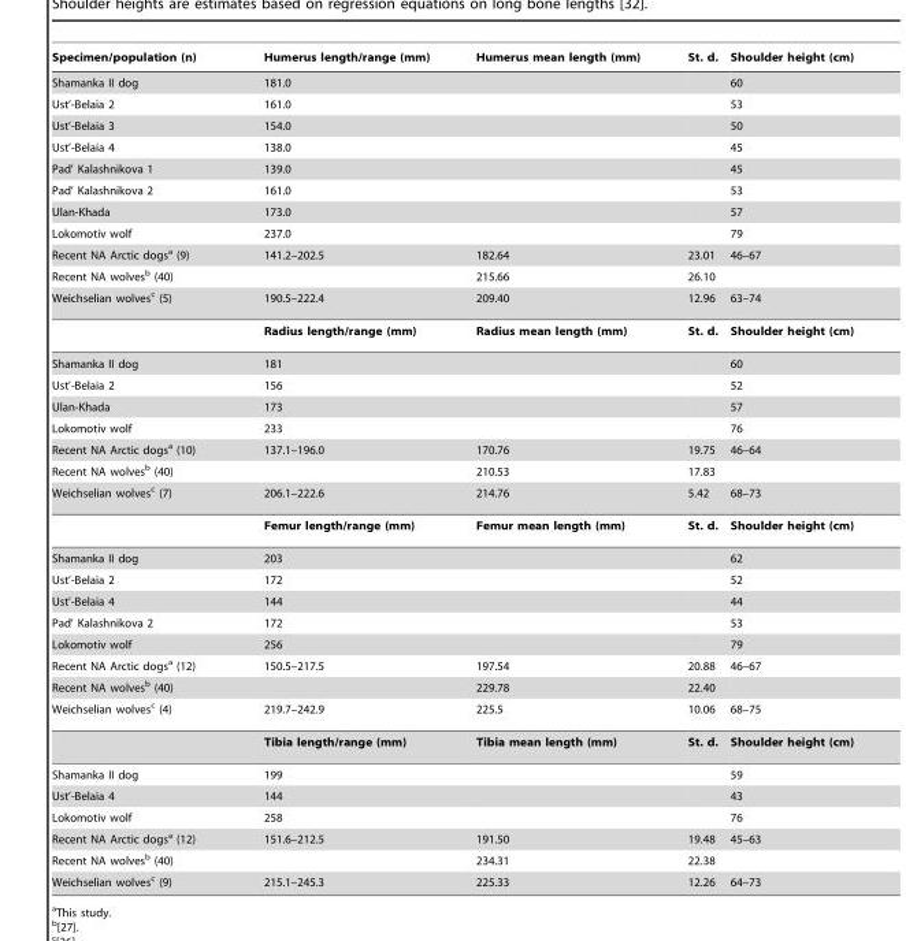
<table><thead><tr><td>Specimen/population (n)</td><td>Humerus length/range (mm)</td><td>Humerus mean length (mm)</td><td>St. d.</td><td>Shoulder height (cm)</td></tr></thead><tbody><tr><td>Shamanka II dog</td><td>181.0</td><td></td><td></td><td>60</td></tr><tr><td>Ust’-Belaia 2</td><td>161.0</td><td></td><td></td><td>53</td></tr><tr><td>Ust’-Belaia 3</td><td>154.0</td><td></td><td></td><td>50</td></tr><tr><td>Ust’-Belaia 4</td><td>138.0</td><td></td><td></td><td>45</td></tr><tr><td>Pad’ Kalashnikova 1</td><td>139.0</td><td></td><td></td><td>45</td></tr><tr><td>Pad’ Kalashnikova 2</td><td>161.0</td><td></td><td></td><td>53</td></tr><tr><td>Ulan-Khada</td><td>173.0</td><td></td><td></td><td>57</td></tr><tr><td>Lokomotiv wolf</td><td>237.0</td><td></td><td></td><td>79</td></tr><tr><td>Recent NA Arctic dogs<sup>a</sup> (9)</td><td>141.2–202.5</td><td>182.64</td><td>23.01</td><td>46–67</td></tr><tr><td>Recent NA wolves<sup>b</sup> (40)</td><td></td><td>215.66</td><td>26.10</td><td></td></tr><tr><td rowspan="2">Weichselian wolves<sup>c</sup> (5)</td><td>190.5–222.4</td><td>209.40</td><td>12.96</td><td>63–74</td></tr><tr><td>Radius length/range (mm)</td><td>Radius mean length (mm)</td><td>St. d.</td><td>Shoulder height (cm)</td></tr><tr><td>Shamanka II dog</td><td>181</td><td></td><td></td><td>60</td></tr><tr><td>Ust’-Belaia 2</td><td>156</td><td></td><td></td><td>52</td></tr><tr><td>Ulan-Khada</td><td>173</td><td></td><td></td><td>57</td></tr><tr><td>Lokomotiv wolf</td><td>233</td><td></td><td></td><td>76</td></tr><tr><td>Recent NA Arctic dogs<sup>a</sup> (10)</td><td>137.1–196.0</td><td>170.76</td><td>19.75</td><td>46–64</td></tr><tr><td>Recent NA wolves<sup>b</sup> (40)</td><td></td><td>210.53</td><td>17.83</td><td></td></tr><tr><td rowspan="2">Weichselian wolves<sup>c</sup> (7)</td><td>206.1–222.6</td><td>214.76</td><td>5.42</td><td>68–73</td></tr><tr><td>Femur length/range (mm)</td><td>Femur mean length (mm)</td><td>St. d.</td><td>Shoulder height (cm)</td></tr><tr><td>Shamanka II dog</td><td>203</td><td></td><td></td><td>62</td></tr><tr><td>Ust’-Belaia 2</td><td>172</td><td></td><td></td><td>52</td></tr><tr><td>Ust’-Belaia 4</td><td>144</td><td></td><td></td><td>44</td></tr><tr><td>Pad’ Kalashnikova 2</td><td>172</td><td></td><td></td><td>53</td></tr><tr><td>Lokomotiv wolf</td><td>256</td><td></td><td></td><td>79</td></tr><tr><td>Recent NA Arctic dogs<sup>a</sup> (12)</td><td>150.5–217.5</td><td>197.54</td><td>20.88</td><td>46–67</td></tr><tr><td>Recent NA wolves<sup>b</sup> (40)</td><td></td><td>229.78</td><td>22.40</td><td></td></tr><tr><td rowspan="2">Weichselian wolves<sup>c</sup> (4)</td><td>219.7–242.9</td><td>225.5</td><td>10.06</td><td>68–75</td></tr><tr><td>Tibia length/range (mm)</td><td>Tibia mean length (mm)</td><td>St. d.</td><td>Shoulder height (cm)</td></tr><tr><td>Shamanka II dog</td><td>199</td><td></td><td></td><td>59</td></tr><tr><td>Ust’-Belaia 4</td><td>144</td><td></td><td></td><td>43</td></tr><tr><td>Lokomotiv wolf</td><td>258</td><td></td><td></td><td>76</td></tr><tr><td>Recent NA Arctic dogs<sup>a</sup> (12)</td><td>151.6–212.5</td><td>191.50</td><td>19.48</td><td>45–63</td></tr><tr><td>Recent NA wolves<sup>b</sup> (40)</td><td></td><td>234.31</td><td>22.38</td><td></td></tr><tr><td>Weichselian wolves<sup>c</sup> (9)</td><td>215.1–245.3</td><td>225.33</td><td>12.26</td><td>64–73</td></tr></tbody></table>